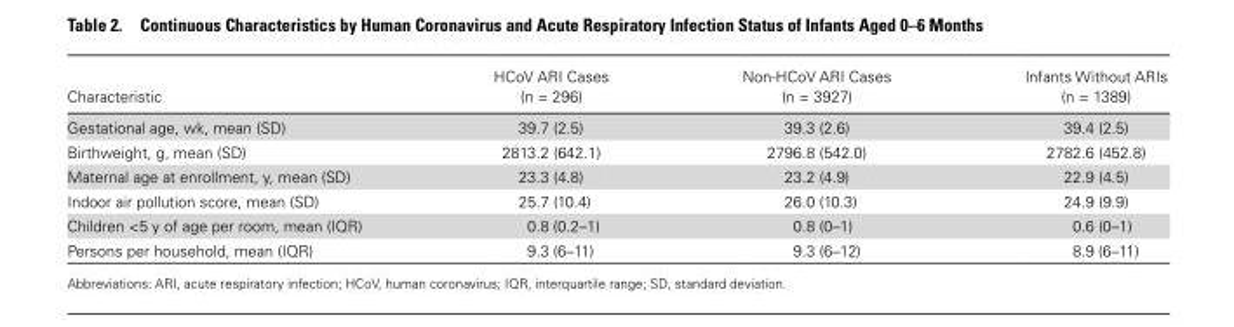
<table><thead><tr><td>Characteristic</td><td>HCoV ARI Cases (n = 296)</td><td>Non-HCoV ARI Cases (n = 3927)</td><td>Infants Without ARIs (n = 1389)</td></tr></thead><tbody><tr><td>Gestational age, wk, mean (SD)</td><td>39.7 (2.5)</td><td>39.3 (2.6)</td><td>39.4 (2.5)</td></tr><tr><td>Birthweight, g, mean (SD)</td><td>2813.2 (642.1)</td><td>2796.8 (542.0)</td><td>2782.6 (452.8)</td></tr><tr><td>Maternal age at enrollment, y, mean (SD)</td><td>23.3 (4.8)</td><td>23.2 (4.9)</td><td>22.9 (4.5)</td></tr><tr><td>Indoor air pollution score, mean (SD)</td><td>25.7 (10.4)</td><td>26.0 (10.3)</td><td>24.9 (9.9)</td></tr><tr><td>Children &lt;5 y of age per room, mean (IQR)</td><td>0.8 (0.2–1)</td><td>0.8 (0–1)</td><td>0.6 (0–1)</td></tr><tr><td>Persons per household, mean (IQR)</td><td>9.3 (6–11)</td><td>9.3 (6–12)</td><td>8.9 (6–11)</td></tr></tbody></table>